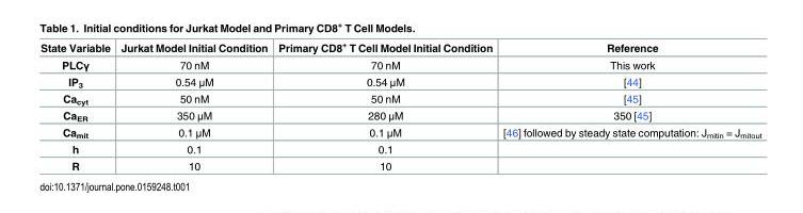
<table><thead><tr><td>State Variable</td><td>Jurkat Model Initial Condition</td><td>Primary CD8<sup>+</sup> T Cell Model Initial Condition</td><td>Reference</td></tr></thead><tbody><tr><td>PLCγ</td><td>70 nM</td><td>70 nM</td><td>This work</td></tr><tr><td>IP<sub>3</sub></td><td>0.54 μM</td><td>0.54 μM</td><td>[44]</td></tr><tr><td>Ca<sub>cyt</sub></td><td>50 nM</td><td>50 nM</td><td>[45]</td></tr><tr><td>Ca<sub>ER</sub></td><td>350 μM</td><td>280 μM</td><td>350 [45]</td></tr><tr><td>Ca<sub>mit</sub></td><td>0.1 μM</td><td>0.1 μM</td><td>[46] followed by steady state computation: J<sub>mitin</sub> = J<sub>mitout</sub></td></tr><tr><td>h</td><td>0.1</td><td>0.1</td><td></td></tr><tr><td>R</td><td>10</td><td>10</td><td></td></tr></tbody></table>